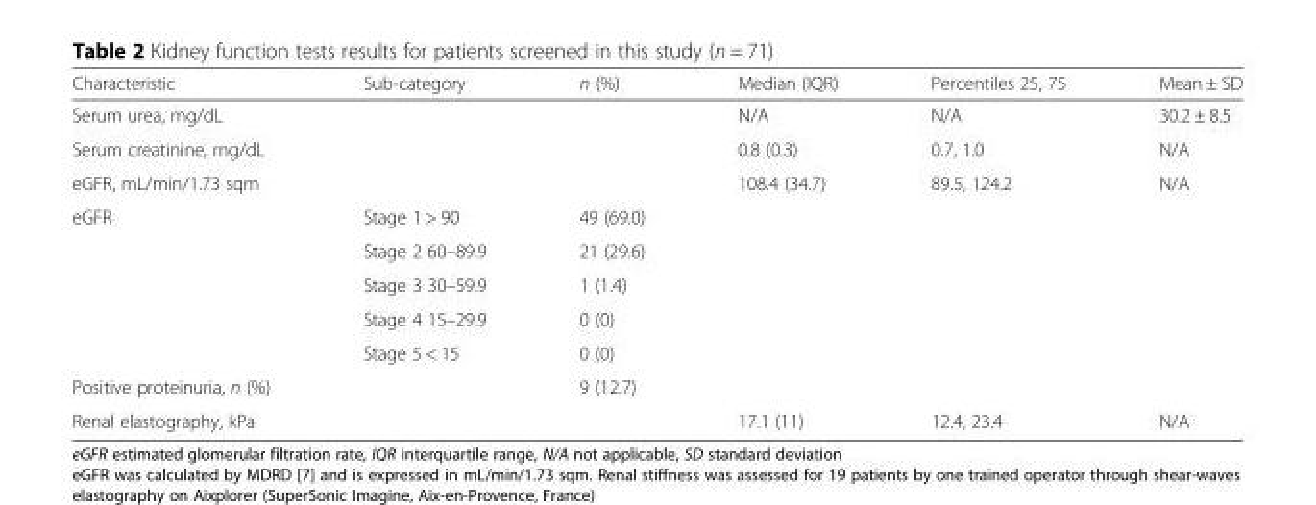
<table><thead><tr><td>Characteristic</td><td>Sub-category</td><td>n (%)</td><td>Median (IQR)</td><td>Percentiles 25, 75</td><td>Mean ± SD</td></tr></thead><tbody><tr><td>Serum urea, mg/dL</td><td></td><td></td><td>N/A</td><td>N/A</td><td>30.2 ± 8.5</td></tr><tr><td>Serum creatinine, mg/dL</td><td></td><td></td><td>0.8 (0.3)</td><td>0.7, 1.0</td><td>N/A</td></tr><tr><td>eGFR, mL/min/1.73 sqm</td><td></td><td></td><td>108.4 (34.7)</td><td>89.5, 124.2</td><td>N/A</td></tr><tr><td rowspan="5">eGFR</td><td>Stage 1 &gt; 90</td><td>49 (69.0)</td><td></td><td></td><td></td></tr><tr><td>Stage 2 60–89.9</td><td>21 (29.6)</td><td></td><td></td><td></td></tr><tr><td>Stage 3 30–59.9</td><td>1 (1.4)</td><td></td><td></td><td></td></tr><tr><td>Stage 4 15–29.9</td><td>0 (0)</td><td></td><td></td><td></td></tr><tr><td>Stage 5 &lt; 15</td><td>0 (0)</td><td></td><td></td><td></td></tr><tr><td>Positive proteinuria, n (%)</td><td></td><td>9 (12.7)</td><td></td><td></td><td></td></tr><tr><td>Renal elastography, kPa</td><td></td><td></td><td>17.1 (11)</td><td>12.4, 23.4</td><td>N/A</td></tr></tbody></table>